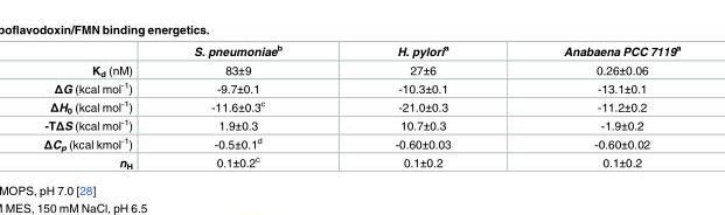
<table><thead><tr><td></td><td>S. pneumoniae<sup>b</sup></td><td>H. pylori<sup>a</sup></td><td>Anabaena PCC 7119<sup>a</sup></td></tr></thead><tbody><tr><td>K<sub>d</sub> (nM)</td><td>83±9</td><td>27±6</td><td>0.26±0.06</td></tr><tr><td>ΔG (kcal mol<sup>-1</sup>)</td><td>-9.7±0.1</td><td>-10.3±0.1</td><td>-13.1±0.1</td></tr><tr><td>ΔH<sub>0</sub> (kcal mol<sup>-1</sup>)</td><td>-11.6±0.3<sup>c</sup></td><td>-21.0±0.3</td><td>-11.2±0.2</td></tr><tr><td>-TΔS (kcal mol<sup>-1</sup>)</td><td>1.9±0.3</td><td>10.7±0.3</td><td>-1.9±0.2</td></tr><tr><td>ΔC<sub>p</sub> (kcal kmol<sup>-1</sup>)</td><td>-0.5±0.1<sup>d</sup></td><td>-0.60±0.03</td><td>-0.60±0.02</td></tr><tr><td>n<sub>H</sub></td><td>0.1±0.2<sup>c</sup></td><td>0.1±0.2</td><td>0.1±0.2</td></tr></tbody></table>